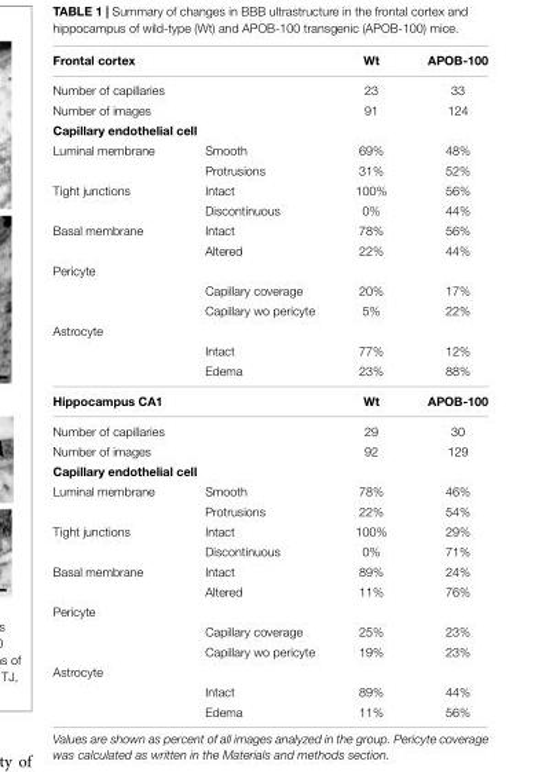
<table><thead><tr><td>Frontal cortex</td><td></td><td>Wt</td><td>APOB-100</td></tr></thead><tbody><tr><td>Number of capillaries</td><td></td><td>23</td><td>33</td></tr><tr><td>Number of images</td><td></td><td>91</td><td>124</td></tr><tr><td colspan="4">Capillary endothelial cell</td></tr><tr><td rowspan="2">Luminal membrane</td><td>Smooth</td><td>69%</td><td>48%</td></tr><tr><td>Protrusions</td><td>31%</td><td>52%</td></tr><tr><td rowspan="2">Tight junctions</td><td>Intact</td><td>100%</td><td>56%</td></tr><tr><td>Discontinuous</td><td>0%</td><td>44%</td></tr><tr><td rowspan="2">Basal membrane</td><td>Intact</td><td>78%</td><td>56%</td></tr><tr><td>Altered</td><td>22%</td><td>44%</td></tr><tr><td colspan="4">Pericyte</td></tr><tr><td></td><td>Capillary coverage</td><td>20%</td><td>17%</td></tr><tr><td></td><td>Capillary wo pericyte</td><td>5%</td><td>22%</td></tr><tr><td colspan="4">Astrocyte</td></tr><tr><td></td><td>Intact</td><td>77%</td><td>12%</td></tr><tr><td></td><td>Edema</td><td>23%</td><td>88%</td></tr><tr><td>Hippocampus CA1</td><td></td><td>Wt</td><td>APOB-100</td></tr><tr><td>Number of capillaries</td><td></td><td>29</td><td>30</td></tr><tr><td>Number of images</td><td></td><td>92</td><td>129</td></tr><tr><td colspan="4">Capillary endothelial cell</td></tr><tr><td rowspan="2">Luminal membrane</td><td>Smooth</td><td>78%</td><td>46%</td></tr><tr><td>Protrusions</td><td>22%</td><td>54%</td></tr><tr><td rowspan="2">Tight junctions</td><td>Intact</td><td>100%</td><td>29%</td></tr><tr><td>Discontinuous</td><td>0%</td><td>71%</td></tr><tr><td rowspan="2">Basal membrane</td><td>Intact</td><td>89%</td><td>24%</td></tr><tr><td>Altered</td><td>11%</td><td>76%</td></tr><tr><td colspan="4">Pericyte</td></tr><tr><td></td><td>Capillary coverage</td><td>25%</td><td>23%</td></tr><tr><td></td><td>Capillary wo pericyte</td><td>19%</td><td>23%</td></tr><tr><td colspan="4">Astrocyte</td></tr><tr><td></td><td>Intact</td><td>89%</td><td>44%</td></tr><tr><td></td><td>Edema</td><td>11%</td><td>56%</td></tr></tbody></table>